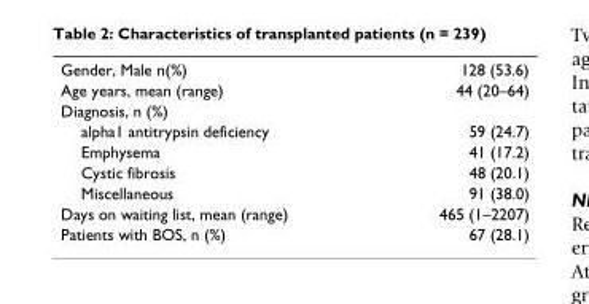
<table><tbody><tr><td>Gender, Male n(%)</td><td>128 (53.6)</td></tr><tr><td>Age years, mean (range)</td><td>44 (20–64)</td></tr><tr><td colspan="2">Diagnosis, n (%)</td></tr><tr><td>alpha1 antitrypsin deficiency</td><td>59 (24.7)</td></tr><tr><td>Emphysema</td><td>41 (17.2)</td></tr><tr><td>Cystic fibrosis</td><td>48 (20.1)</td></tr><tr><td>Miscellaneous</td><td>91 (38.0)</td></tr><tr><td>Days on waiting list, mean (range)</td><td>465 (1–2207)</td></tr><tr><td>Patients with BOS, n (%)</td><td>67 (28.1)</td></tr></tbody></table>